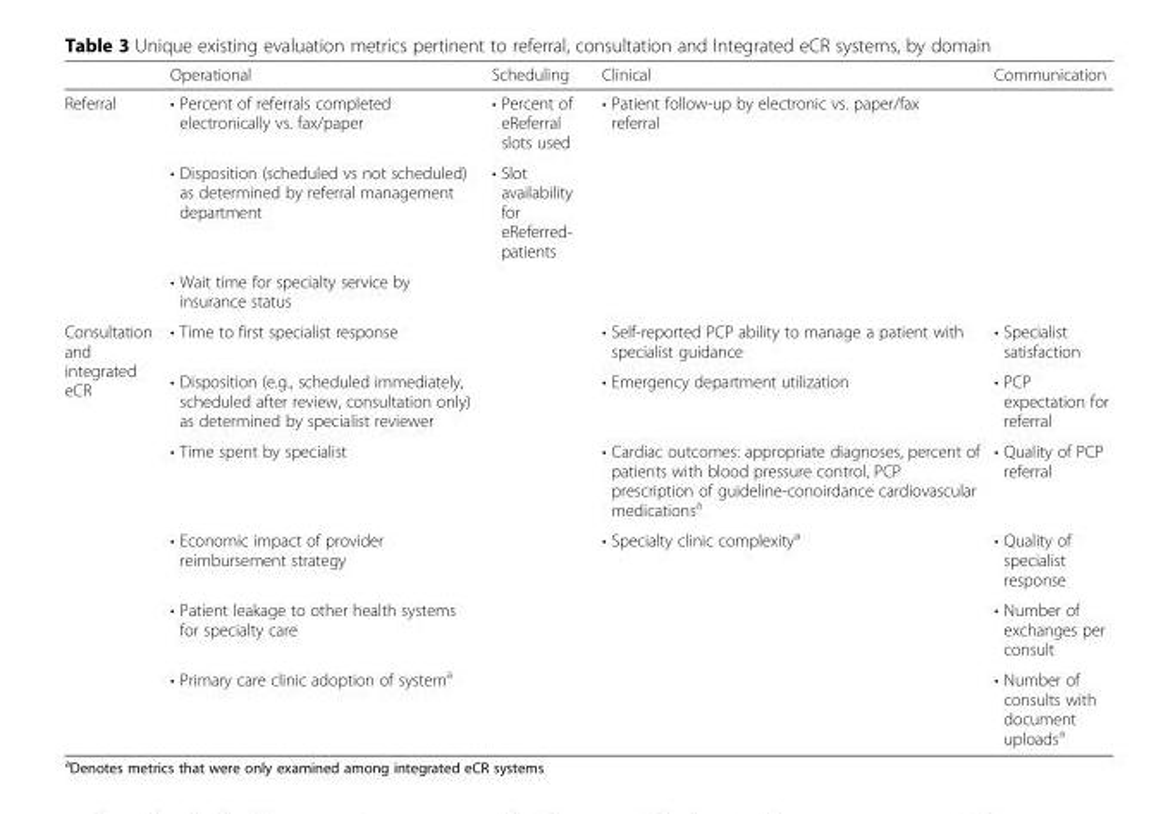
<table><thead><tr><td></td><td>Operational</td><td>Scheduling</td><td>Clinical</td><td>Communication</td></tr></thead><tbody><tr><td rowspan="3">Referral</td><td>• Percent of referrals completed electronically vs. fax/paper</td><td>• Percent of eReferral slots used</td><td>• Patient follow-up by electronic vs. paper/fax referral</td><td></td></tr><tr><td>• Disposition (scheduled vs not scheduled) as determined by referral management department</td><td>• Slot availability for eReferred- patients</td><td></td><td></td></tr><tr><td>• Wait time for specialty service by insurance status</td><td></td><td></td><td></td></tr><tr><td rowspan="6">Consultation and integrated eCR</td><td>• Time to first specialist response</td><td></td><td>• Self-reported PCP ability to manage a patient with specialist guidance</td><td>• Specialist satisfaction</td></tr><tr><td>• Disposition (e.g., scheduled immediately, scheduled after review, consultation only) as determined by specialist reviewer</td><td></td><td>• Emergency department utilization</td><td>• PCP expectation for referral</td></tr><tr><td>• Time spent by specialist</td><td></td><td>• Cardiac outcomes: appropriate diagnoses, percent of patients with blood pressure control, PCP prescription of guideline-conoirdance cardiovascular medications<sup>a</sup></td><td>• Quality of PCP referral</td></tr><tr><td>• Economic impact of provider reimbursement strategy</td><td></td><td>• Specialty clinic complexity<sup>a</sup></td><td>• Quality of specialist response</td></tr><tr><td>• Patient leakage to other health systems for specialty care</td><td></td><td></td><td>• Number of exchanges per consult</td></tr><tr><td>• Primary care clinic adoption of system<sup>a</sup></td><td></td><td></td><td>• Number of consults with document uploads<sup>a</sup></td></tr></tbody></table>